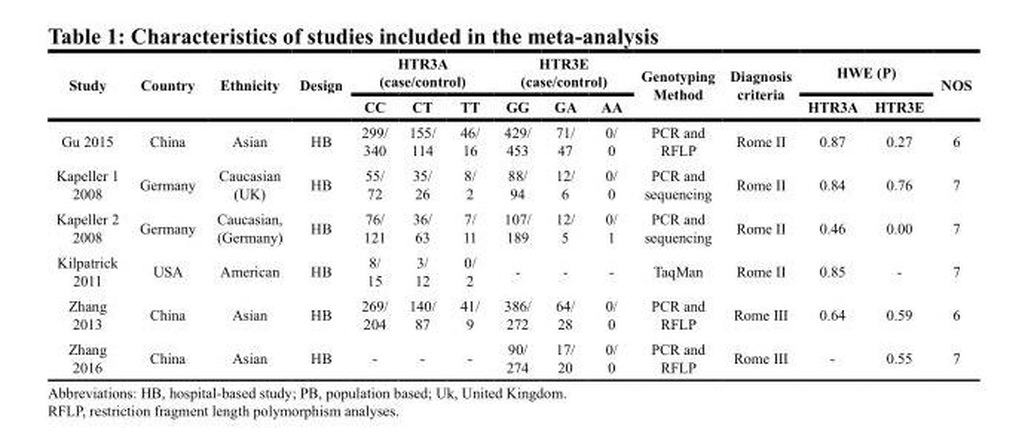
<table><thead><tr><td rowspan="2">Study</td><td rowspan="2">Country</td><td rowspan="2">Ethnicity</td><td rowspan="2">Design</td><td colspan="3">HTR3A (case/control)</td><td colspan="3">HTR3E (case/control)</td><td rowspan="2">Genotyping Method</td><td rowspan="2">Diagnosis criteria</td><td colspan="2">HWE (P)</td><td rowspan="2">NOS</td></tr><tr><td>CC</td><td>CT</td><td>TT</td><td>GG</td><td>GA</td><td>AA</td><td>HTR3A</td><td>HTR3E</td></tr></thead><tbody><tr><td>Gu 2015</td><td>China</td><td>Asian</td><td>HB</td><td>299/ 340</td><td>155/ 114</td><td>46/ 16</td><td>429/ 453</td><td>71/ 47</td><td>0/ 0</td><td>PCR and RFLP</td><td>Rome II</td><td>0.87</td><td>0.27</td><td>6</td></tr><tr><td>Kapeller 1 2008</td><td>Germany</td><td>Caucasian (UK)</td><td>HB</td><td>55/ 72</td><td>35/ 26</td><td>8/ 2</td><td>88/ 94</td><td>12/ 6</td><td>0/ 0</td><td>PCR and sequencing</td><td>Rome II</td><td>0.84</td><td>0.76</td><td>7</td></tr><tr><td>Kapeller 2 2008</td><td>Germany</td><td>Caucasian, (Germany)</td><td>HB</td><td>76/ 121</td><td>36/ 63</td><td>7/ 11</td><td>107/ 189</td><td>12/ 5</td><td>0/ 1</td><td>PCR and sequencing</td><td>Rome II</td><td>0.46</td><td>0.00</td><td>7</td></tr><tr><td>Kilpatrick 2011</td><td>USA</td><td>American</td><td>HB</td><td>8/ 15</td><td>3/ 12</td><td>0/ 2</td><td>-</td><td>-</td><td>-</td><td>TaqMan</td><td>Rome II</td><td>0.85</td><td>-</td><td>7</td></tr><tr><td>Zhang 2013</td><td>China</td><td>Asian</td><td>HB</td><td>269/ 204</td><td>140/ 87</td><td>41/ 9</td><td>386/ 272</td><td>64/ 28</td><td>0/ 0</td><td>PCR and RFLP</td><td>Rome III</td><td>0.64</td><td>0.59</td><td>6</td></tr><tr><td>Zhang 2016</td><td>China</td><td>Asian</td><td>HB</td><td>-</td><td>-</td><td>-</td><td>90/ 274</td><td>17/ 20</td><td>0/ 0</td><td>PCR and RFLP</td><td>Rome III</td><td>-</td><td>0.55</td><td>7</td></tr></tbody></table>